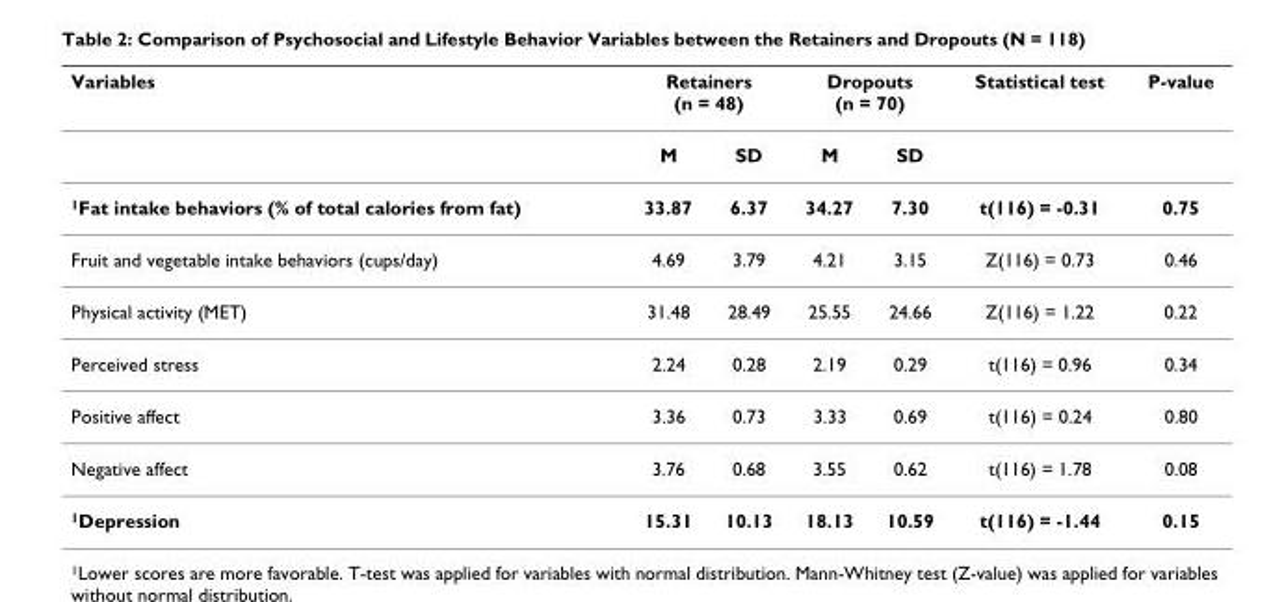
<table><thead><tr><td rowspan="2">Variables</td><td colspan="2">Retainers (n = 48)</td><td colspan="2">Dropouts (n = 70)</td><td rowspan="2">Statistical test</td><td rowspan="2">P-value</td></tr><tr><td>M</td><td>SD</td><td>M</td><td>SD</td></tr></thead><tbody><tr><td><sup>1</sup>Fat intake behaviors (% of total calories from fat)</td><td>33.87</td><td>6.37</td><td>34.27</td><td>7.30</td><td>t(116) = -0.31</td><td>0.75</td></tr><tr><td>Fruit and vegetable intake behaviors (cups/day)</td><td>4.69</td><td>3.79</td><td>4.21</td><td>3.15</td><td>Z(116) = 0.73</td><td>0.46</td></tr><tr><td>Physical activity (MET)</td><td>31.48</td><td>28.49</td><td>25.55</td><td>24.66</td><td>Z(116) = 1.22</td><td>0.22</td></tr><tr><td>Perceived stress</td><td>2.24</td><td>0.28</td><td>2.19</td><td>0.29</td><td>t(116) = 0.96</td><td>0.34</td></tr><tr><td>Positive affect</td><td>3.36</td><td>0.73</td><td>3.33</td><td>0.69</td><td>t(116) = 0.24</td><td>0.80</td></tr><tr><td>Negative affect</td><td>3.76</td><td>0.68</td><td>3.55</td><td>0.62</td><td>t(116) = 1.78</td><td>0.08</td></tr><tr><td><sup>1</sup>Depression</td><td>15.31</td><td>10.13</td><td>18.13</td><td>10.59</td><td>t(116) = -1.44</td><td>0.15</td></tr></tbody></table>